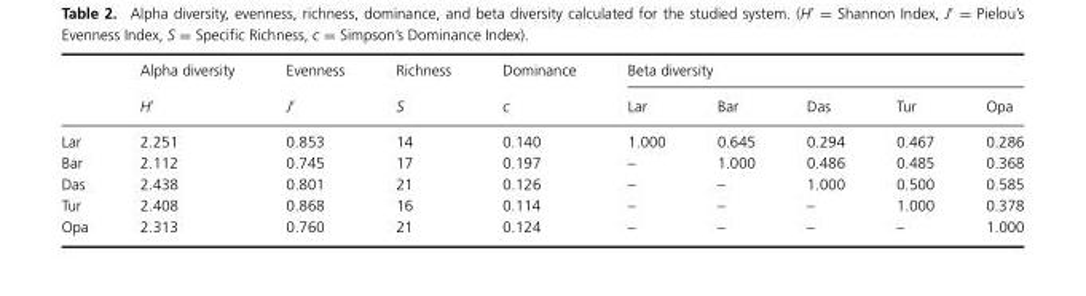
<table><thead><tr><td rowspan="2"></td><td rowspan="2">Alpha diversity H′</td><td rowspan="2">Evenness J′</td><td rowspan="2">Richness S</td><td rowspan="2">Dominance c</td><td colspan="5">Beta diversity</td></tr><tr><td>Lar</td><td>Bar</td><td>Das</td><td>Tur</td><td>Opa</td></tr></thead><tbody><tr><td>Lar</td><td>2.251</td><td>0.853</td><td>14</td><td>0.140</td><td>1.000</td><td>0.645</td><td>0.294</td><td>0.467</td><td>0.286</td></tr><tr><td>Bar</td><td>2.112</td><td>0.745</td><td>17</td><td>0.197</td><td>–</td><td>1.000</td><td>0.486</td><td>0.485</td><td>0.368</td></tr><tr><td>Das</td><td>2.438</td><td>0.801</td><td>21</td><td>0.126</td><td>–</td><td>–</td><td>1.000</td><td>0.500</td><td>0.585</td></tr><tr><td>Tur</td><td>2.408</td><td>0.868</td><td>16</td><td>0.114</td><td>–</td><td>–</td><td>–</td><td>1.000</td><td>0.378</td></tr><tr><td>Opa</td><td>2.313</td><td>0.760</td><td>21</td><td>0.124</td><td>–</td><td>–</td><td>–</td><td>–</td><td>1.000</td></tr></tbody></table>